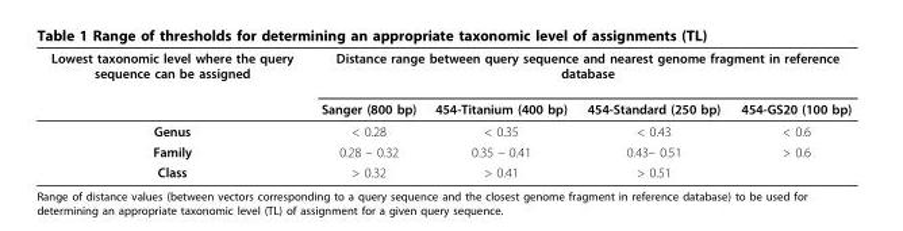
<table><thead><tr><td rowspan="2">Lowest taxonomic level where the query sequence can be assigned</td><td colspan="4">Distance range between query sequence and nearest genome fragment in reference database</td></tr><tr><td>Sanger (800 bp)</td><td>454-Titanium (400 bp)</td><td>454-Standard (250 bp)</td><td>454-GS20 (100 bp)</td></tr></thead><tbody><tr><td>Genus</td><td>&lt; 0.28</td><td>&lt; 0.35</td><td>&lt; 0.43</td><td>&lt; 0.6</td></tr><tr><td>Family</td><td>0.28 – 0.32</td><td>0.35 – 0.41</td><td>0.43– 0.51</td><td>&gt; 0.6</td></tr><tr><td>Class</td><td>&gt; 0.32</td><td>&gt; 0.41</td><td>&gt; 0.51</td><td></td></tr></tbody></table>